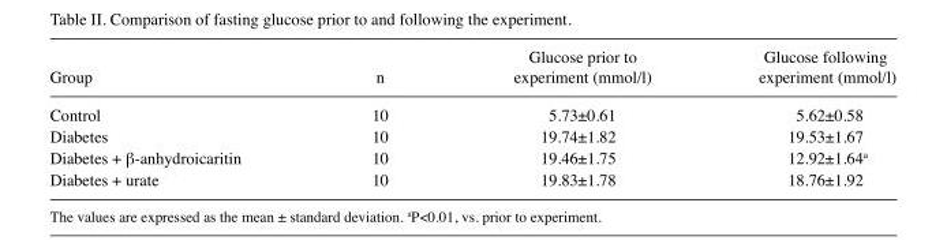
<table><thead><tr><td>Group</td><td>n</td><td>Glucose prior to experiment (mmol/l)</td><td>Glucose following experiment (mmol/l)</td></tr></thead><tbody><tr><td>Control</td><td>10</td><td>5.73±0.61</td><td>5.62±0.58</td></tr><tr><td>Diabetes</td><td>10</td><td>19.74±1.82</td><td>19.53±1.67</td></tr><tr><td>Diabetes + β-anhydroicaritin</td><td>10</td><td>19.46±1.75</td><td>12.92±1.64<sup>a</sup></td></tr><tr><td>Diabetes + urate</td><td>10</td><td>19.83±1.78</td><td>18.76±1.92</td></tr></tbody></table>